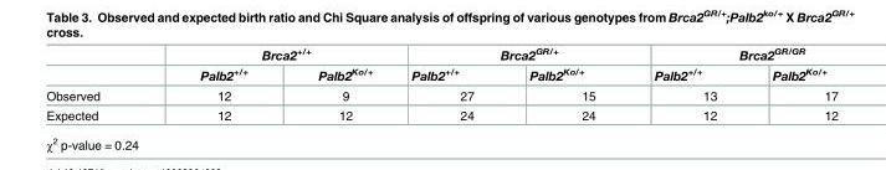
<table><thead><tr><td rowspan="2"></td><td colspan="2">Brca2<sup>+/+</sup></td><td colspan="2">Brca2<sup>GR/+</sup></td><td colspan="2">Brca2<sup>GR/GR</sup></td></tr><tr><td>Palb2<sup>+/+</sup></td><td>Palb2<sup>Ko/+</sup></td><td>Palb2<sup>+/+</sup></td><td>Palb2<sup>Ko/+</sup></td><td>Palb2<sup>+/+</sup></td><td>Palb2<sup>Ko/+</sup></td></tr></thead><tbody><tr><td>Observed</td><td>12</td><td>9</td><td>27</td><td>15</td><td>13</td><td>17</td></tr><tr><td>Expected</td><td>12</td><td>12</td><td>24</td><td>24</td><td>12</td><td>12</td></tr></tbody></table>